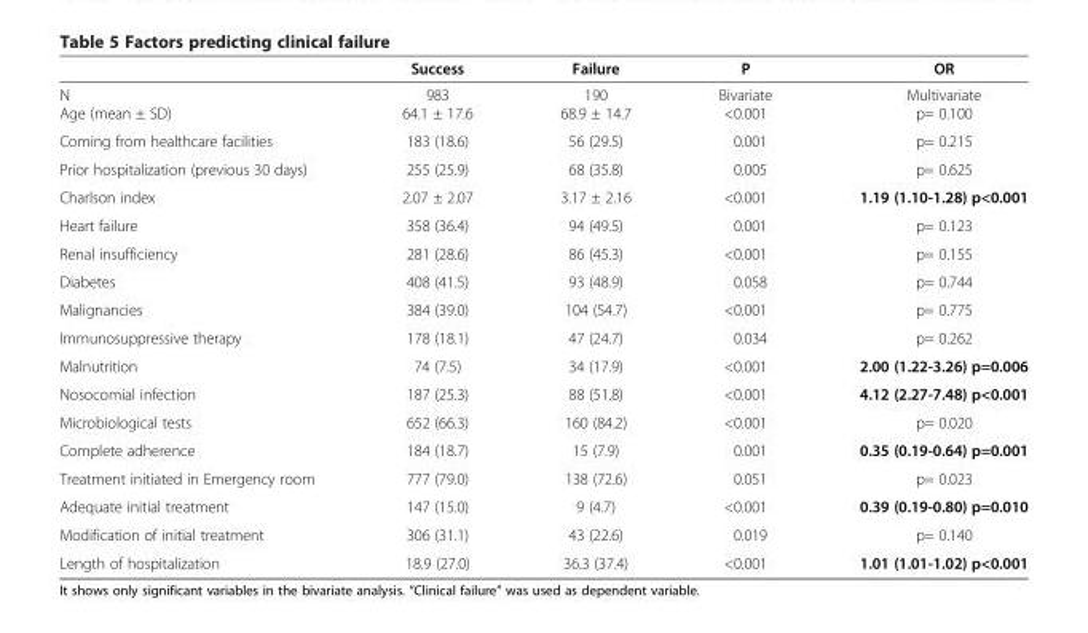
<table><thead><tr><td rowspan="2">N</td><td rowspan="2">Success 983</td><td rowspan="2">Failure 190</td><td rowspan="2">P Bivariate</td><td rowspan="2">OR Multivariate</td></tr><tr></tr></thead><tbody><tr><td>Age (mean ± SD)</td><td>64.1 ± 17.6</td><td>68.9 ± 14.7</td><td>&lt;0.001</td><td>p= 0.100</td></tr><tr><td>Coming from healthcare facilities</td><td>183 (18.6)</td><td>56 (29.5)</td><td>0.001</td><td>p= 0.215</td></tr><tr><td>Prior hospitalization (previous 30 days)</td><td>255 (25.9)</td><td>68 (35.8)</td><td>0.005</td><td>p= 0.625</td></tr><tr><td>Charlson index</td><td>2.07 ± 2.07</td><td>3.17 ± 2.16</td><td>&lt;0.001</td><td>1.19 (1.10-1.28) p&lt;0.001</td></tr><tr><td>Heart failure</td><td>358 (36.4)</td><td>94 (49.5)</td><td>0.001</td><td>p= 0.123</td></tr><tr><td>Renal insufficiency</td><td>281 (28.6)</td><td>86 (45.3)</td><td>&lt;0.001</td><td>p= 0.155</td></tr><tr><td>Diabetes</td><td>408 (41.5)</td><td>93 (48.9)</td><td>0.058</td><td>p= 0.744</td></tr><tr><td>Malignancies</td><td>384 (39.0)</td><td>104 (54.7)</td><td>&lt;0.001</td><td>p= 0.775</td></tr><tr><td>Immunosuppressive therapy</td><td>178 (18.1)</td><td>47 (24.7)</td><td>0.034</td><td>p= 0.262</td></tr><tr><td>Malnutrition</td><td>74 (7.5)</td><td>34 (17.9)</td><td>&lt;0.001</td><td>2.00 (1.22-3.26) p=0.006</td></tr><tr><td>Nosocomial infection</td><td>187 (25.3)</td><td>88 (51.8)</td><td>&lt;0.001</td><td>4.12 (2.27-7.48) p&lt;0.001</td></tr><tr><td>Microbiological tests</td><td>652 (66.3)</td><td>160 (84.2)</td><td>&lt;0.001</td><td>p= 0.020</td></tr><tr><td>Complete adherence</td><td>184 (18.7)</td><td>15 (7.9)</td><td>0.001</td><td>0.35 (0.19-0.64) p=0.001</td></tr><tr><td>Treatment initiated in Emergency room</td><td>777 (79.0)</td><td>138 (72.6)</td><td>0.051</td><td>p= 0.023</td></tr><tr><td>Adequate initial treatment</td><td>147 (15.0)</td><td>9 (4.7)</td><td>&lt;0.001</td><td>0.39 (0.19-0.80) p=0.010</td></tr><tr><td>Modification of initial treatment</td><td>306 (31.1)</td><td>43 (22.6)</td><td>0.019</td><td>p= 0.140</td></tr><tr><td>Length of hospitalization</td><td>18.9 (27.0)</td><td>36.3 (37.4)</td><td>&lt;0.001</td><td>1.01 (1.01-1.02) p&lt;0.001</td></tr></tbody></table>